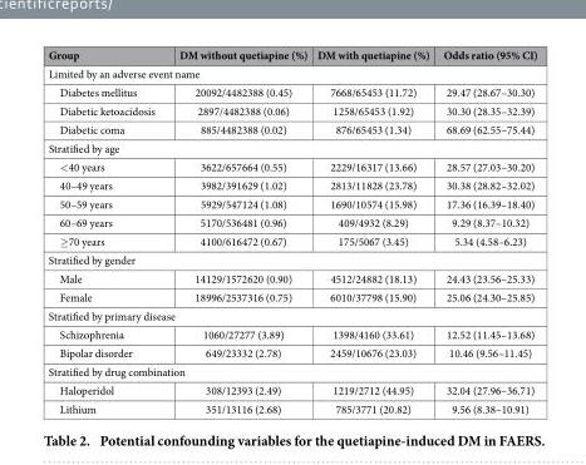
<table><thead><tr><td>Group</td><td>DM without quetiapine (%)</td><td>DM with quetiapine (%)</td><td>Odds ratio (95% CI)</td></tr></thead><tbody><tr><td colspan="4">Limited by an adverse event name</td></tr><tr><td>Diabetes mellitus</td><td>20092/4482388 (0.45)</td><td>7668/65453 (11.72)</td><td>29.47 (28.67–30.30)</td></tr><tr><td>Diabetic ketoacidosis</td><td>2897/4482388 (0.06)</td><td>1258/65453 (1.92)</td><td>30.30 (28.35–32.39)</td></tr><tr><td>Diabetic coma</td><td>885/4482388 (0.02)</td><td>876/65453 (1.34)</td><td>68.69 (62.55–75.44)</td></tr><tr><td colspan="4">Stratified by age</td></tr><tr><td>&lt; 40 years</td><td>3622/657664 (0.55)</td><td>2229/16317 (13.66)</td><td>28.57 (27.03–30.20)</td></tr><tr><td>40–49 years</td><td>3982/391629 (1.02)</td><td>2813/11828 (23.78)</td><td>30.38 (28.82–32.02)</td></tr><tr><td>50–59 years</td><td>5929/547124 (1.08)</td><td>1690/10574 (15.98)</td><td>17.36 (16.39–18.40)</td></tr><tr><td>60–69 years</td><td>5170/536481 (0.96)</td><td>409/4932 (8.29)</td><td>9.29 (8.37–10.32)</td></tr><tr><td>≥ 70 years</td><td>4100/616472 (0.67)</td><td>175/5067 (3.45)</td><td>5.34 (4.58–6.23)</td></tr><tr><td colspan="4">Stratified by gender</td></tr><tr><td>Male</td><td>14129/1572620 (0.90)</td><td>4512/24882 (18.13)</td><td>24.43 (23.56–25.33)</td></tr><tr><td>Female</td><td>18996/2537316 (0.75)</td><td>6010/37798 (15.90)</td><td>25.06 (24.30–25.85)</td></tr><tr><td colspan="4">Stratified by primary disease</td></tr><tr><td>Schizophrenia</td><td>1060/27277 (3.89)</td><td>1398/4160 (33.61)</td><td>12.52 (11.45–13.68)</td></tr><tr><td>Bipolar disorder</td><td>649/23332 (2.78)</td><td>2459/10676 (23.03)</td><td>10.46 (9.56–11.45)</td></tr><tr><td colspan="4">Stratified by drug combination</td></tr><tr><td>Haloperidol</td><td>308/12393 (2.49)</td><td>1219/2712 (44.95)</td><td>32.04 (27.96–36.71)</td></tr><tr><td>Lithium</td><td>351/13116 (2.68)</td><td>785/3771 (20.82)</td><td>9.56 (8.38–10.91)</td></tr></tbody></table>